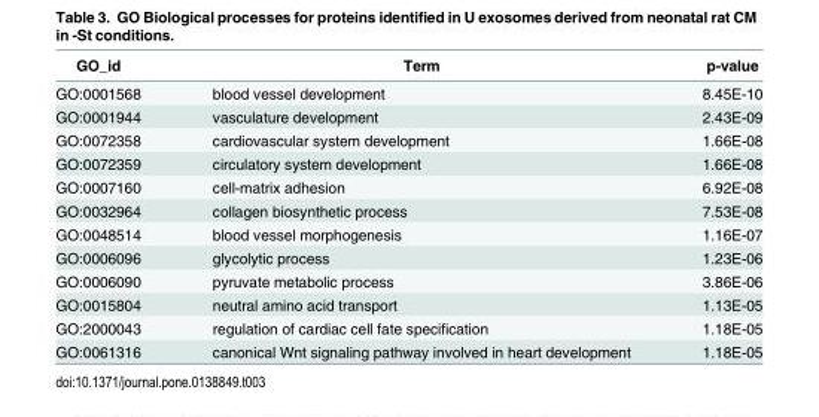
<table><thead><tr><td>GO_id</td><td>Term</td><td>p-value</td></tr></thead><tbody><tr><td>GO:0001568</td><td>blood vessel development</td><td>8.45E-10</td></tr><tr><td>GO:0001944</td><td>vasculature development</td><td>2.43E-09</td></tr><tr><td>GO:0072358</td><td>cardiovascular system development</td><td>1.66E-08</td></tr><tr><td>GO:0072359</td><td>circulatory system development</td><td>1.66E-08</td></tr><tr><td>GO:0007160</td><td>cell-matrix adhesion</td><td>6.92E-08</td></tr><tr><td>GO:0032964</td><td>collagen biosynthetic process</td><td>7.53E-08</td></tr><tr><td>GO:0048514</td><td>blood vessel morphogenesis</td><td>1.16E-07</td></tr><tr><td>GO:0006096</td><td>glycolytic process</td><td>1.23E-06</td></tr><tr><td>GO:0006090</td><td>pyruvate metabolic process</td><td>3.86E-06</td></tr><tr><td>GO:0015804</td><td>neutral amino acid transport</td><td>1.13E-05</td></tr><tr><td>GO:2000043</td><td>regulation of cardiac cell fate specification</td><td>1.18E-05</td></tr><tr><td>GO:0061316</td><td>canonical Wnt signaling pathway involved in heart development</td><td>1.18E-05</td></tr></tbody></table>